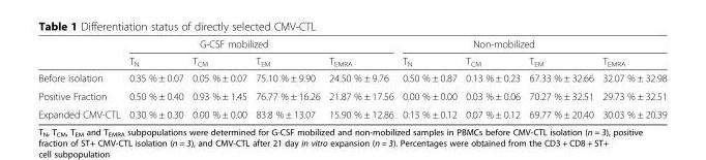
<table><thead><tr><td rowspan="2"></td><td colspan="4">G-CSF mobilized</td><td colspan="4">Non-mobilized</td></tr><tr><td>T<sub>N</sub></td><td>T<sub>CM</sub></td><td>T<sub>EM</sub></td><td>T<sub>EMRA</sub></td><td>T<sub>N</sub></td><td>T<sub>CM</sub></td><td>T<sub>EM</sub></td><td>T<sub>EMRA</sub></td></tr></thead><tbody><tr><td>Before isolation</td><td>0.35 % ± 0.07</td><td>0.05 % ± 0.07</td><td>75.10 % ± 9.90</td><td>24.50 % ± 9.76</td><td>0.50 % ± 0.87</td><td>0.13 % ± 0.23</td><td>67.33 % ± 32.66</td><td>32.07 % ± 32.98</td></tr><tr><td>Positive Fraction</td><td>0.50 % ± 0.40</td><td>0.93 % ± 1.45</td><td>76.77 % ± 16.26</td><td>21.87 % ± 17.56</td><td>0.00 % ± 0.00</td><td>0.03 % ± 0.06</td><td>70.27 % ± 32.51</td><td>29.73 % ± 32.51</td></tr><tr><td>Expanded CMV-CTL</td><td>0.30 % ± 0.30</td><td>0.00 % ± 0.00</td><td>83.8 % ± 13.07</td><td>15.90 % ± 12.86</td><td>0.13 % ± 0.12</td><td>0.07 % ± 0.12</td><td>69.77 % ± 20.40</td><td>30.03 % ± 20.39</td></tr></tbody></table>